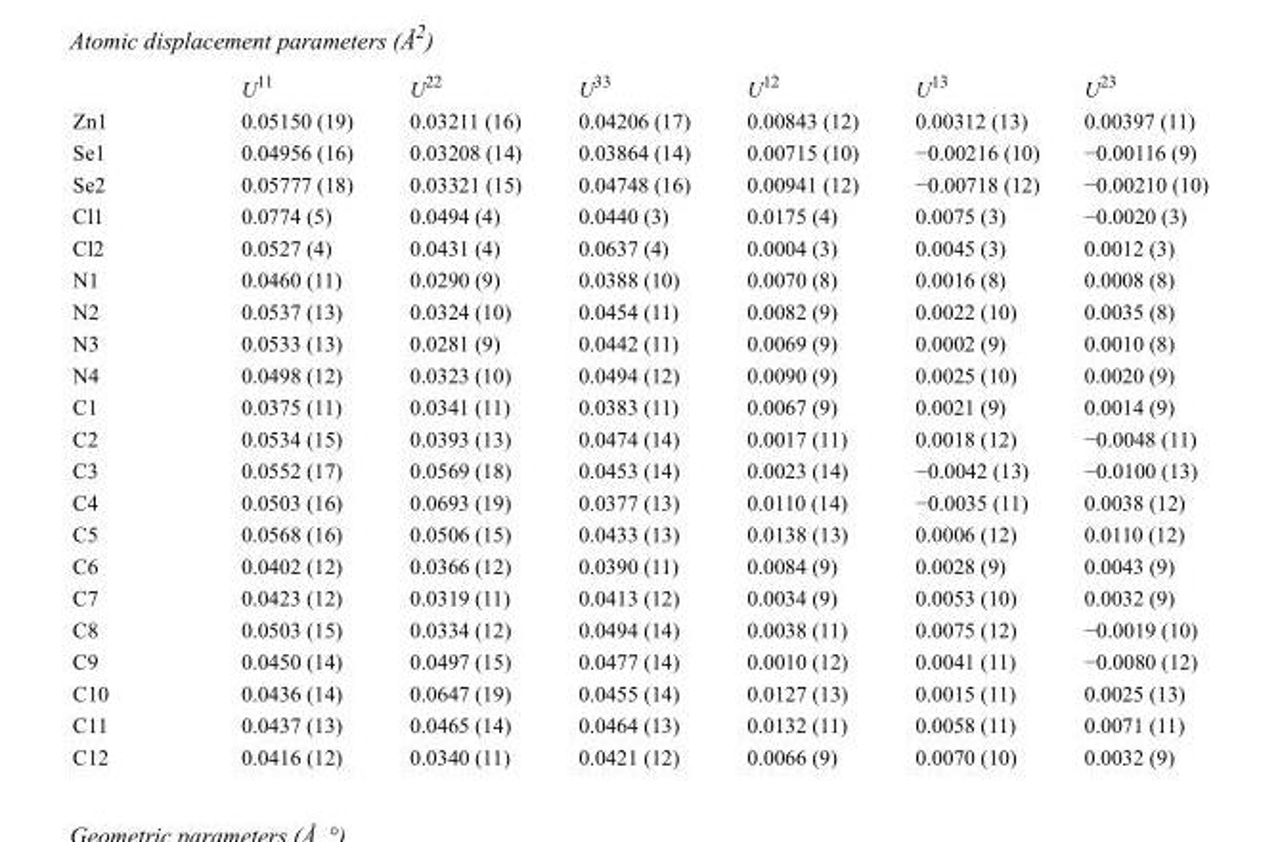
<table><thead><tr><td></td><td>U<sup>11</sup></td><td>U<sup>22</sup></td><td>U<sup>33</sup></td><td>U<sup>12</sup></td><td>U<sup>13</sup></td><td>U<sup>23</sup></td></tr></thead><tbody><tr><td>Zn1</td><td>0.05150 (19)</td><td>0.03211 (16)</td><td>0.04206 (17)</td><td>0.00843 (12)</td><td>0.00312 (13)</td><td>0.00397 (11)</td></tr><tr><td>Se1</td><td>0.04956 (16)</td><td>0.03208 (14)</td><td>0.03864 (14)</td><td>0.00715 (10)</td><td>−0.00216 (10)</td><td>−0.00116 (9)</td></tr><tr><td>Se2</td><td>0.05777 (18)</td><td>0.03321 (15)</td><td>0.04748 (16)</td><td>0.00941 (12)</td><td>−0.00718 (12)</td><td>−0.00210 (10)</td></tr><tr><td>Cl1</td><td>0.0774 (5)</td><td>0.0494 (4)</td><td>0.0440 (3)</td><td>0.0175 (4)</td><td>0.0075 (3)</td><td>−0.0020 (3)</td></tr><tr><td>Cl2</td><td>0.0527 (4)</td><td>0.0431 (4)</td><td>0.0637 (4)</td><td>0.0004 (3)</td><td>0.0045 (3)</td><td>0.0012 (3)</td></tr><tr><td>N1</td><td>0.0460 (11)</td><td>0.0290 (9)</td><td>0.0388 (10)</td><td>0.0070 (8)</td><td>0.0016 (8)</td><td>0.0008 (8)</td></tr><tr><td>N2</td><td>0.0537 (13)</td><td>0.0324 (10)</td><td>0.0454 (11)</td><td>0.0082 (9)</td><td>0.0022 (10)</td><td>0.0035 (8)</td></tr><tr><td>N3</td><td>0.0533 (13)</td><td>0.0281 (9)</td><td>0.0442 (11)</td><td>0.0069 (9)</td><td>0.0002 (9)</td><td>0.0010 (8)</td></tr><tr><td>N4</td><td>0.0498 (12)</td><td>0.0323 (10)</td><td>0.0494 (12)</td><td>0.0090 (9)</td><td>0.0025 (10)</td><td>0.0020 (9)</td></tr><tr><td>C1</td><td>0.0375 (11)</td><td>0.0341 (11)</td><td>0.0383 (11)</td><td>0.0067 (9)</td><td>0.0021 (9)</td><td>0.0014 (9)</td></tr><tr><td>C2</td><td>0.0534 (15)</td><td>0.0393 (13)</td><td>0.0474 (14)</td><td>0.0017 (11)</td><td>0.0018 (12)</td><td>−0.0048 (11)</td></tr><tr><td>C3</td><td>0.0552 (17)</td><td>0.0569 (18)</td><td>0.0453 (14)</td><td>0.0023 (14)</td><td>−0.0042 (13)</td><td>−0.0100 (13)</td></tr><tr><td>C4</td><td>0.0503 (16)</td><td>0.0693 (19)</td><td>0.0377 (13)</td><td>0.0110 (14)</td><td>−0.0035 (11)</td><td>0.0038 (12)</td></tr><tr><td>C5</td><td>0.0568 (16)</td><td>0.0506 (15)</td><td>0.0433 (13)</td><td>0.0138 (13)</td><td>0.0006 (12)</td><td>0.0110 (12)</td></tr><tr><td>C6</td><td>0.0402 (12)</td><td>0.0366 (12)</td><td>0.0390 (11)</td><td>0.0084 (9)</td><td>0.0028 (9)</td><td>0.0043 (9)</td></tr><tr><td>C7</td><td>0.0423 (12)</td><td>0.0319 (11)</td><td>0.0413 (12)</td><td>0.0034 (9)</td><td>0.0053 (10)</td><td>0.0032 (9)</td></tr><tr><td>C8</td><td>0.0503 (15)</td><td>0.0334 (12)</td><td>0.0494 (14)</td><td>0.0038 (11)</td><td>0.0075 (12)</td><td>−0.0019 (10)</td></tr><tr><td>C9</td><td>0.0450 (14)</td><td>0.0497 (15)</td><td>0.0477 (14)</td><td>0.0010 (12)</td><td>0.0041 (11)</td><td>−0.0080 (12)</td></tr><tr><td>C10</td><td>0.0436 (14)</td><td>0.0647 (19)</td><td>0.0455 (14)</td><td>0.0127 (13)</td><td>0.0015 (11)</td><td>0.0025 (13)</td></tr><tr><td>C11</td><td>0.0437 (13)</td><td>0.0465 (14)</td><td>0.0464 (13)</td><td>0.0132 (11)</td><td>0.0058 (11)</td><td>0.0071 (11)</td></tr><tr><td>C12</td><td>0.0416 (12)</td><td>0.0340 (11)</td><td>0.0421 (12)</td><td>0.0066 (9)</td><td>0.0070 (10)</td><td>0.0032 (9)</td></tr></tbody></table>